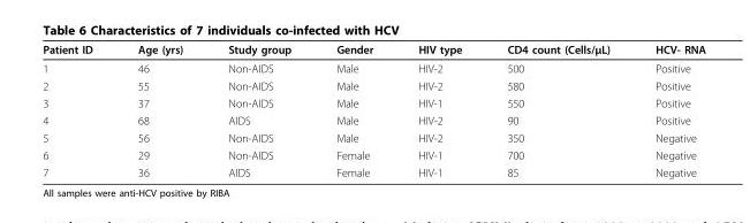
<table><thead><tr><td>Patient ID</td><td>Age (yrs)</td><td>Study group</td><td>Gender</td><td>HIV type</td><td>CD4 count (Cells/μL)</td><td>HCV- RNA</td></tr></thead><tbody><tr><td>1</td><td>46</td><td>Non-AIDS</td><td>Male</td><td>HIV-2</td><td>500</td><td>Positive</td></tr><tr><td>2</td><td>55</td><td>Non-AIDS</td><td>Male</td><td>HIV-2</td><td>580</td><td>Positive</td></tr><tr><td>3</td><td>37</td><td>Non-AIDS</td><td>Male</td><td>HIV-1</td><td>550</td><td>Positive</td></tr><tr><td>4</td><td>68</td><td>AIDS</td><td>Male</td><td>HIV-2</td><td>90</td><td>Positive</td></tr><tr><td>5</td><td>56</td><td>Non-AIDS</td><td>Male</td><td>HIV-2</td><td>350</td><td>Negative</td></tr><tr><td>6</td><td>29</td><td>Non-AIDS</td><td>Female</td><td>HIV-1</td><td>700</td><td>Negative</td></tr><tr><td>7</td><td>36</td><td>AIDS</td><td>Female</td><td>HIV-1</td><td>85</td><td>Negative</td></tr></tbody></table>